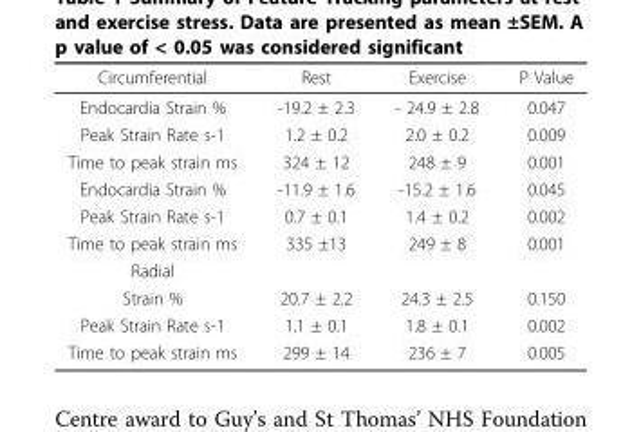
<table><thead><tr><td>Circumferential</td><td>Rest</td><td>Exercise</td><td>P Value</td></tr></thead><tbody><tr><td>Endocardia Strain %</td><td>-19.2 ± 2.3</td><td>- 24.9 ± 2.8</td><td>0.047</td></tr><tr><td>Peak Strain Rate s-1</td><td>1.2 ± 0.2</td><td>2.0 ± 0.2</td><td>0.009</td></tr><tr><td>Time to peak strain ms</td><td>324 ± 12</td><td>248 ± 9</td><td>0.001</td></tr><tr><td>Endocardia Strain %</td><td>-11.9 ± 1.6</td><td>-15.2 ± 1.6</td><td>0.045</td></tr><tr><td>Peak Strain Rate s-1</td><td>0.7 ± 0.1</td><td>1.4 ± 0.2</td><td>0.002</td></tr><tr><td>Time to peak strain ms</td><td>335 ±13</td><td>249 ± 8</td><td>0.001</td></tr><tr><td colspan="4">Radial</td></tr><tr><td>Strain %</td><td>20.7 ± 2.2</td><td>24.3 ± 2.5</td><td>0.150</td></tr><tr><td>Peak Strain Rate s-1</td><td>1.1 ± 0.1</td><td>1.8 ± 0.1</td><td>0.002</td></tr><tr><td>Time to peak strain ms</td><td>299 ± 14</td><td>236 ± 7</td><td>0.005</td></tr></tbody></table>